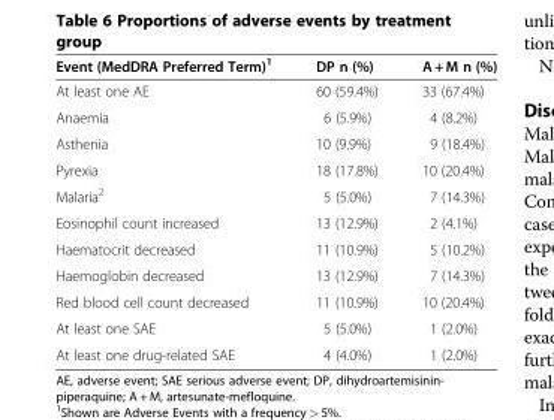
<table><thead><tr><td>Event (MedDRA Preferred Term)<sup>1</sup></td><td>DP n (%)</td><td>A + M n (%)</td></tr></thead><tbody><tr><td>At least one AE</td><td>60 (59.4%)</td><td>33 (67.4%)</td></tr><tr><td>Anaemia</td><td>6 (5.9%)</td><td>4 (8.2%)</td></tr><tr><td>Asthenia</td><td>10 (9.9%)</td><td>9 (18.4%)</td></tr><tr><td>Pyrexia</td><td>18 (17.8%)</td><td>10 (20.4%)</td></tr><tr><td>Malaria<sup>2</sup></td><td>5 (5.0%)</td><td>7 (14.3%)</td></tr><tr><td>Eosinophil count increased</td><td>13 (12.9%)</td><td>2 (4.1%)</td></tr><tr><td>Haematocrit decreased</td><td>11 (10.9%)</td><td>5 (10.2%)</td></tr><tr><td>Haemoglobin decreased</td><td>13 (12.9%)</td><td>7 (14.3%)</td></tr><tr><td>Red blood cell count decreased</td><td>11 (10.9%)</td><td>10 (20.4%)</td></tr><tr><td>At least one SAE</td><td>5 (5.0%)</td><td>1 (2.0%)</td></tr><tr><td>At least one drug-related SAE</td><td>4 (4.0%)</td><td>1 (2.0%)</td></tr></tbody></table>